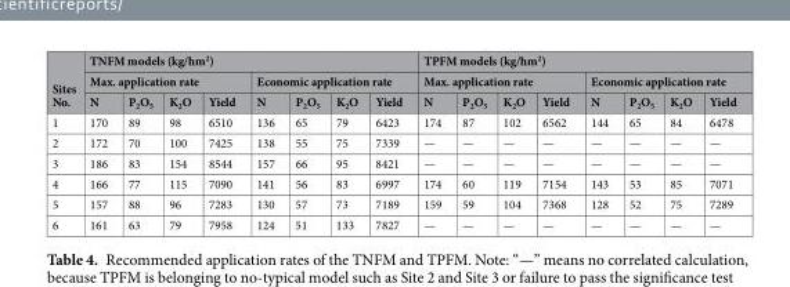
<table><thead><tr><td rowspan="3">Sites No.</td><td colspan="8">TNFM models (kg/hm<sup>2</sup>)</td><td colspan="8">TPFM models (kg/hm<sup>2</sup>)</td></tr><tr><td colspan="4">Max. application rate</td><td colspan="4">Economic application rate</td><td colspan="4">Max. application rate</td><td colspan="4">Economic application rate</td></tr><tr><td>N</td><td>P<sub>2</sub>O<sub>5</sub></td><td>K<sub>2</sub>O</td><td>Yield</td><td>N</td><td>P<sub>2</sub>O<sub>5</sub></td><td>K<sub>2</sub>O</td><td>Yield</td><td>N</td><td>P<sub>2</sub>O<sub>5</sub></td><td>K<sub>2</sub>O</td><td>Yield</td><td>N</td><td>P<sub>2</sub>O<sub>5</sub></td><td>K<sub>2</sub>O</td><td>Yield</td></tr></thead><tbody><tr><td>1</td><td>170</td><td>89</td><td>98</td><td>6510</td><td>136</td><td>65</td><td>79</td><td>6423</td><td>174</td><td>87</td><td>102</td><td>6562</td><td>144</td><td>65</td><td>84</td><td>6478</td></tr><tr><td>2</td><td>172</td><td>70</td><td>100</td><td>7425</td><td>138</td><td>55</td><td>75</td><td>7339</td><td>—</td><td>—</td><td>—</td><td>—</td><td>—</td><td>—</td><td>—</td><td>—</td></tr><tr><td>3</td><td>186</td><td>83</td><td>154</td><td>8544</td><td>157</td><td>66</td><td>95</td><td>8421</td><td>—</td><td>—</td><td>—</td><td>—</td><td>—</td><td>—</td><td>—</td><td>—</td></tr><tr><td>4</td><td>166</td><td>77</td><td>115</td><td>7090</td><td>141</td><td>56</td><td>83</td><td>6997</td><td>174</td><td>60</td><td>119</td><td>7154</td><td>143</td><td>53</td><td>85</td><td>7071</td></tr><tr><td>5</td><td>157</td><td>88</td><td>96</td><td>7283</td><td>130</td><td>57</td><td>73</td><td>7189</td><td>159</td><td>59</td><td>104</td><td>7368</td><td>128</td><td>52</td><td>75</td><td>7289</td></tr><tr><td>6</td><td>161</td><td>63</td><td>79</td><td>7958</td><td>124</td><td>51</td><td>133</td><td>7827</td><td>—</td><td>—</td><td>—</td><td>—</td><td>—</td><td>—</td><td>—</td><td>—</td></tr></tbody></table>